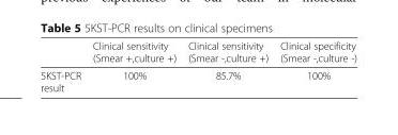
<table><thead><tr><td></td><td>Clinical sensitivity (Smear +,culture +)</td><td>Clinical sensitivity (Smear -,culture +)</td><td>Clinical specificity (Smear -,culture -)</td></tr></thead><tbody><tr><td>5KST-PCR result</td><td>100%</td><td>85.7%</td><td>100%</td></tr></tbody></table>